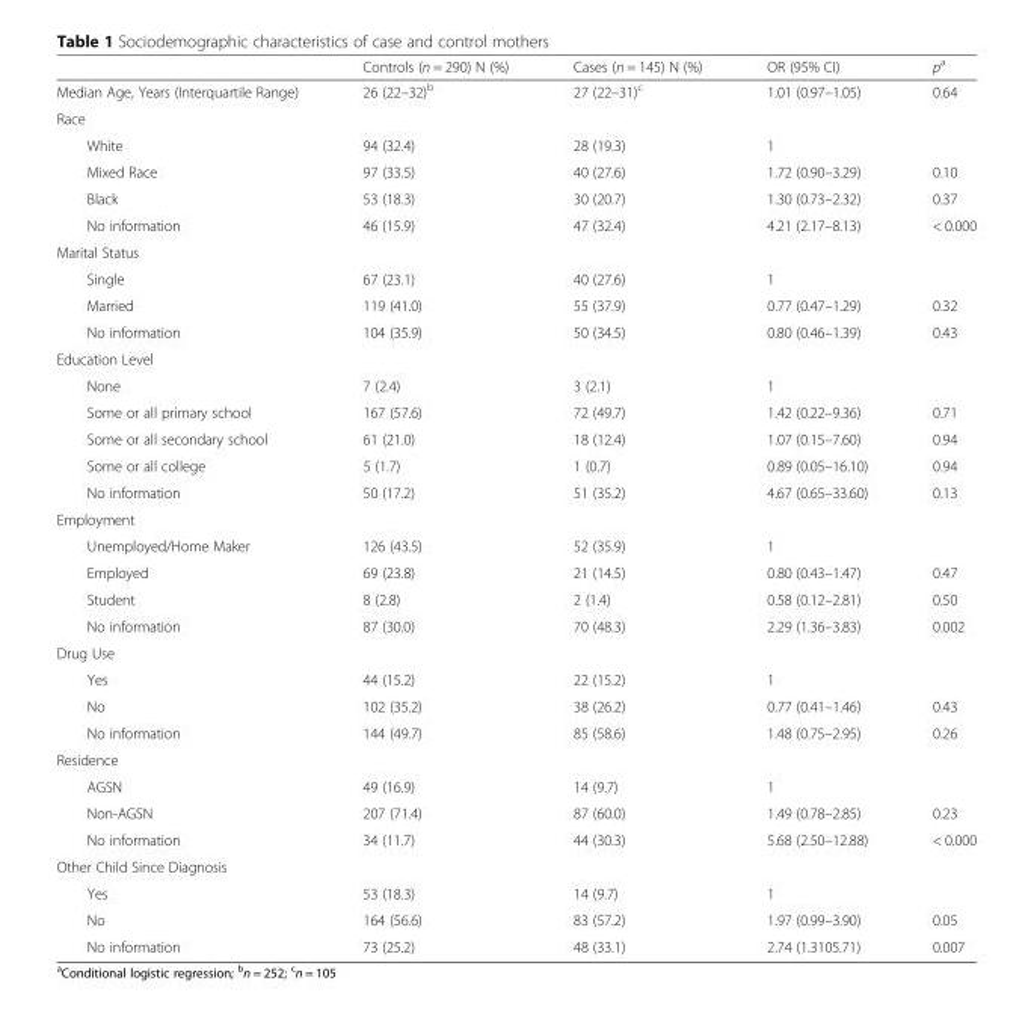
<table><thead><tr><td></td><td>Controls (n = 290) N (%)</td><td>Cases (n = 145) N (%)</td><td>OR (95% CI)</td><td>p<sup>a</sup></td></tr></thead><tbody><tr><td>Median Age, Years (Interquartile Range)</td><td>26 (22–32)<sup>b</sup></td><td>27 (22–31)<sup>c</sup></td><td>1.01 (0.97–1.05)</td><td>0.64</td></tr><tr><td colspan="5">Race</td></tr><tr><td>White</td><td>94 (32.4)</td><td>28 (19.3)</td><td>1</td><td></td></tr><tr><td>Mixed Race</td><td>97 (33.5)</td><td>40 (27.6)</td><td>1.72 (0.90–3.29)</td><td>0.10</td></tr><tr><td>Black</td><td>53 (18.3)</td><td>30 (20.7)</td><td>1.30 (0.73–2.32)</td><td>0.37</td></tr><tr><td>No information</td><td>46 (15.9)</td><td>47 (32.4)</td><td>4.21 (2.17–8.13)</td><td>&lt; 0.000</td></tr><tr><td colspan="5">Marital Status</td></tr><tr><td>Single</td><td>67 (23.1)</td><td>40 (27.6)</td><td>1</td><td></td></tr><tr><td>Married</td><td>119 (41.0)</td><td>55 (37.9)</td><td>0.77 (0.47–1.29)</td><td>0.32</td></tr><tr><td>No information</td><td>104 (35.9)</td><td>50 (34.5)</td><td>0.80 (0.46–1.39)</td><td>0.43</td></tr><tr><td colspan="5">Education Level</td></tr><tr><td>None</td><td>7 (2.4)</td><td>3 (2.1)</td><td>1</td><td></td></tr><tr><td>Some or all primary school</td><td>167 (57.6)</td><td>72 (49.7)</td><td>1.42 (0.22–9.36)</td><td>0.71</td></tr><tr><td>Some or all secondary school</td><td>61 (21.0)</td><td>18 (12.4)</td><td>1.07 (0.15–7.60)</td><td>0.94</td></tr><tr><td>Some or all college</td><td>5 (1.7)</td><td>1 (0.7)</td><td>0.89 (0.05–16.10)</td><td>0.94</td></tr><tr><td>No information</td><td>50 (17.2)</td><td>51 (35.2)</td><td>4.67 (0.65–33.60)</td><td>0.13</td></tr><tr><td colspan="5">Employment</td></tr><tr><td>Unemployed/Home Maker</td><td>126 (43.5)</td><td>52 (35.9)</td><td>1</td><td></td></tr><tr><td>Employed</td><td>69 (23.8)</td><td>21 (14.5)</td><td>0.80 (0.43–1.47)</td><td>0.47</td></tr><tr><td>Student</td><td>8 (2.8)</td><td>2 (1.4)</td><td>0.58 (0.12–2.81)</td><td>0.50</td></tr><tr><td>No information</td><td>87 (30.0)</td><td>70 (48.3)</td><td>2.29 (1.36–3.83)</td><td>0.002</td></tr><tr><td colspan="5">Drug Use</td></tr><tr><td>Yes</td><td>44 (15.2)</td><td>22 (15.2)</td><td>1</td><td></td></tr><tr><td>No</td><td>102 (35.2)</td><td>38 (26.2)</td><td>0.77 (0.41–1.46)</td><td>0.43</td></tr><tr><td>No information</td><td>144 (49.7)</td><td>85 (58.6)</td><td>1.48 (0.75–2.95)</td><td>0.26</td></tr><tr><td colspan="5">Residence</td></tr><tr><td>AGSN</td><td>49 (16.9)</td><td>14 (9.7)</td><td>1</td><td></td></tr><tr><td>Non-AGSN</td><td>207 (71.4)</td><td>87 (60.0)</td><td>1.49 (0.78–2.85)</td><td>0.23</td></tr><tr><td>No information</td><td>34 (11.7)</td><td>44 (30.3)</td><td>5.68 (2.50–12.88)</td><td>&lt; 0.000</td></tr><tr><td colspan="5">Other Child Since Diagnosis</td></tr><tr><td>Yes</td><td>53 (18.3)</td><td>14 (9.7)</td><td>1</td><td></td></tr><tr><td>No</td><td>164 (56.6)</td><td>83 (57.2)</td><td>1.97 (0.99–3.90)</td><td>0.05</td></tr><tr><td>No information</td><td>73 (25.2)</td><td>48 (33.1)</td><td>2.74 (1.3105.71)</td><td>0.007</td></tr></tbody></table>